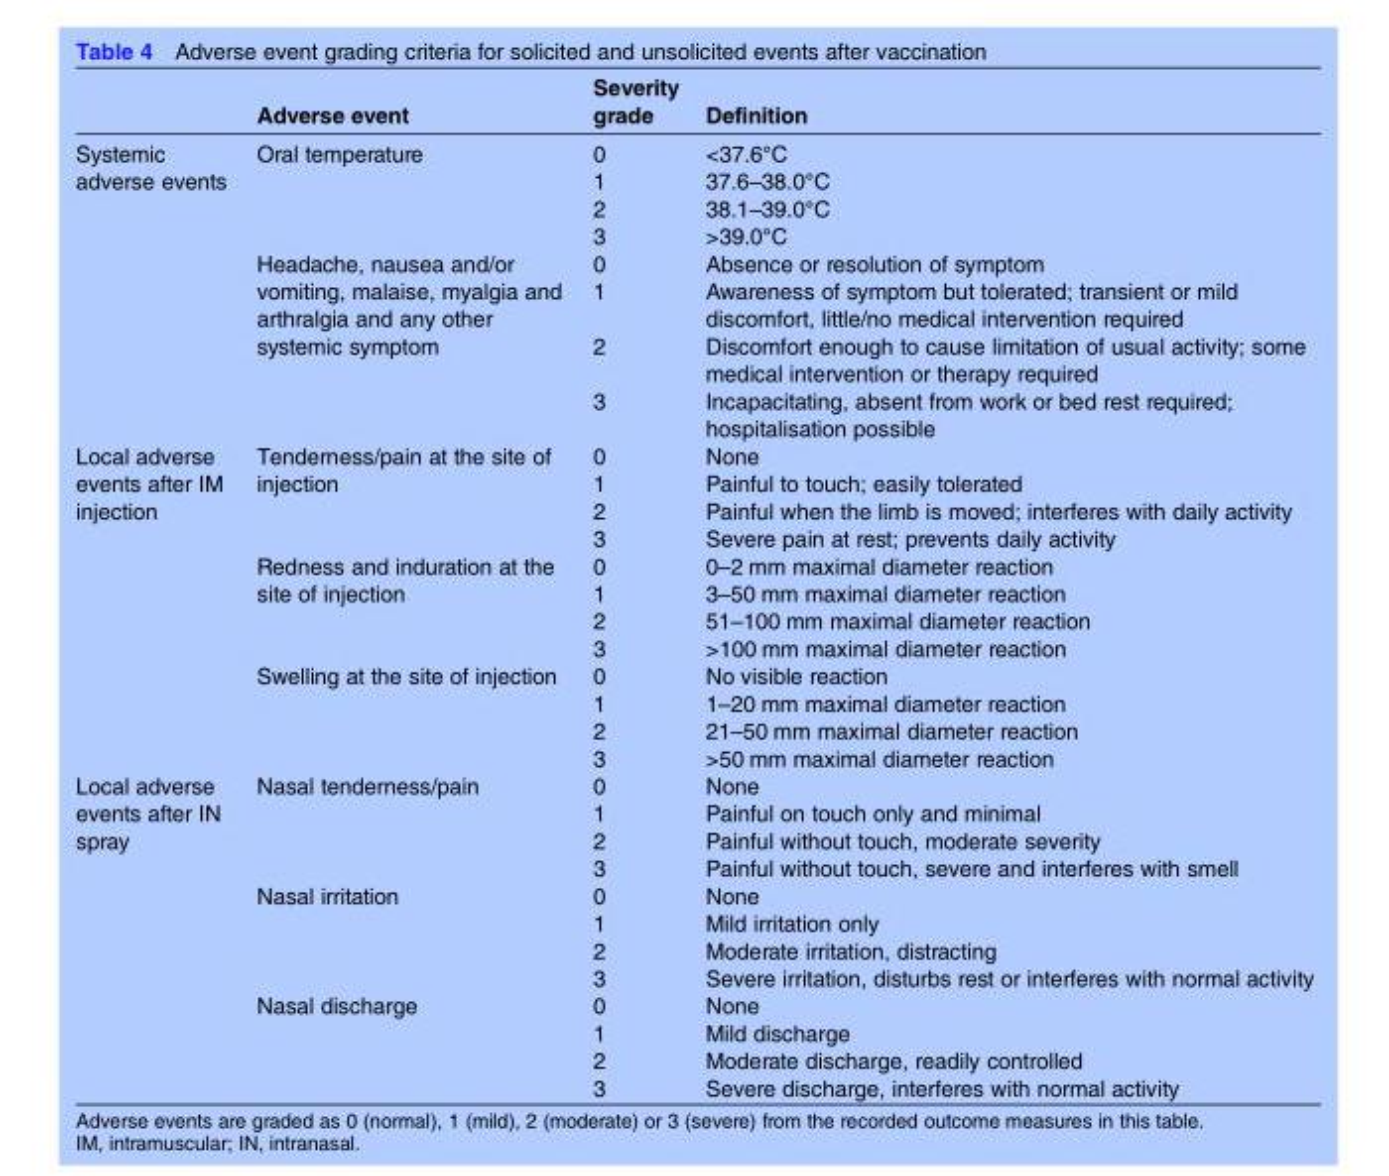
<table><thead><tr><td></td><td>Adverse event</td><td>Severity grade</td><td>Definition</td></tr></thead><tbody><tr><td rowspan="8">Systemic adverse events</td><td rowspan="4">Oral temperature</td><td>0</td><td>&lt;37.6°C</td></tr><tr><td>1</td><td>37.6–38.0°C</td></tr><tr><td>2</td><td>38.1–39.0°C</td></tr><tr><td>3</td><td>&gt;39.0°C</td></tr><tr><td rowspan="4">Headache, nausea and/or vomiting, malaise, myalgia and arthralgia and any other systemic symptom</td><td>0</td><td>Absence or resolution of symptom</td></tr><tr><td>1</td><td>Awareness of symptom but tolerated; transient or mild discomfort, little/no medical intervention required</td></tr><tr><td>2</td><td>Discomfort enough to cause limitation of usual activity; some medical intervention or therapy required</td></tr><tr><td>3</td><td>Incapacitating, absent from work or bed rest required; hospitalisation possible</td></tr><tr><td rowspan="12">Local adverse events after IM injection</td><td rowspan="4">Tenderness/pain at the site of injection</td><td>0</td><td>None</td></tr><tr><td>1</td><td>Painful to touch; easily tolerated</td></tr><tr><td>2</td><td>Painful when the limb is moved; interferes with daily activity</td></tr><tr><td>3</td><td>Severe pain at rest; prevents daily activity</td></tr><tr><td rowspan="4">Redness and induration at the site of injection</td><td>0</td><td>0–2 mm maximal diameter reaction</td></tr><tr><td>1</td><td>3–50 mm maximal diameter reaction</td></tr><tr><td>2</td><td>51–100 mm maximal diameter reaction</td></tr><tr><td>3</td><td>&gt;100 mm maximal diameter reaction</td></tr><tr><td rowspan="4">Swelling at the site of injection</td><td>0</td><td>No visible reaction</td></tr><tr><td>1</td><td>1–20 mm maximal diameter reaction</td></tr><tr><td>2</td><td>21–50 mm maximal diameter reaction</td></tr><tr><td>3</td><td>&gt;50 mm maximal diameter reaction</td></tr><tr><td rowspan="12">Local adverse events after IN spray</td><td rowspan="4">Nasal tenderness/pain</td><td>0</td><td>None</td></tr><tr><td>1</td><td>Painful on touch only and minimal</td></tr><tr><td>2</td><td>Painful without touch, moderate severity</td></tr><tr><td>3</td><td>Painful without touch, severe and interferes with smell</td></tr><tr><td rowspan="4">Nasal irritation</td><td>0</td><td>None</td></tr><tr><td>1</td><td>Mild irritation only</td></tr><tr><td>2</td><td>Moderate irritation, distracting</td></tr><tr><td>3</td><td>Severe irritation, disturbs rest or interferes with normal activity</td></tr><tr><td rowspan="4">Nasal discharge</td><td>0</td><td>None</td></tr><tr><td>1</td><td>Mild discharge</td></tr><tr><td>2</td><td>Moderate discharge, readily controlled</td></tr><tr><td>3</td><td>Severe discharge, interferes with normal activity</td></tr></tbody></table>